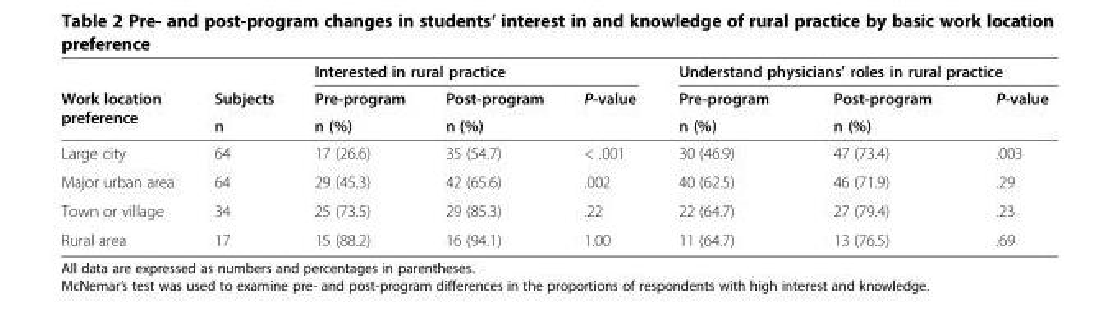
<table><thead><tr><td rowspan="3">Work location preference</td><td rowspan="3">Subjects n</td><td colspan="3">Interested in rural practice</td><td colspan="3">Understand physicians’ roles in rural practice</td></tr><tr><td rowspan="2">Pre-program n (%)</td><td rowspan="2">Post-program n (%)</td><td rowspan="2">P-value</td><td rowspan="2">Pre-program n (%)</td><td rowspan="2">Post-program n (%)</td><td rowspan="2">P-value</td></tr><tr></tr></thead><tbody><tr><td>Large city</td><td>64</td><td>17 (26.6)</td><td>35 (54.7)</td><td>&lt; .001</td><td>30 (46.9)</td><td>47 (73.4)</td><td>.003</td></tr><tr><td>Major urban area</td><td>64</td><td>29 (45.3)</td><td>42 (65.6)</td><td>.002</td><td>40 (62.5)</td><td>46 (71.9)</td><td>.29</td></tr><tr><td>Town or village</td><td>34</td><td>25 (73.5)</td><td>29 (85.3)</td><td>.22</td><td>22 (64.7)</td><td>27 (79.4)</td><td>.23</td></tr><tr><td>Rural area</td><td>17</td><td>15 (88.2)</td><td>16 (94.1)</td><td>1.00</td><td>11 (64.7)</td><td>13 (76.5)</td><td>.69</td></tr></tbody></table>